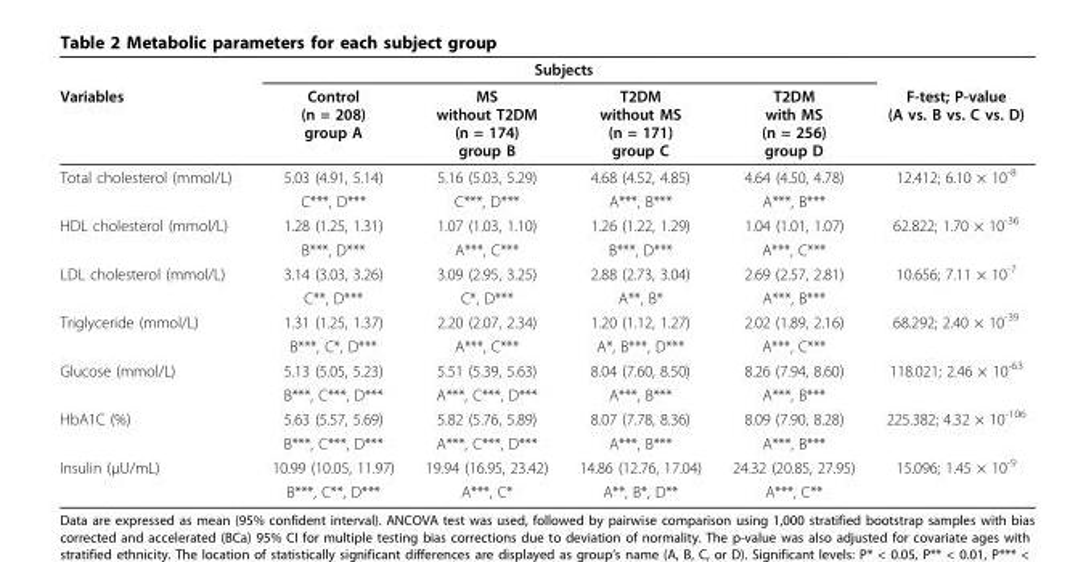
<table><thead><tr><td rowspan="2">Variables</td><td colspan="4">Subjects</td><td rowspan="2">F-test; P-value (A vs. B vs. C vs. D)</td></tr><tr><td>Control (n = 208) group A</td><td>MS without T2DM (n = 174) group B</td><td>T2DM without MS (n = 171) group C</td><td>T2DM with MS (n = 256) group D</td></tr></thead><tbody><tr><td rowspan="2">Total cholesterol (mmol/L)</td><td>5.03 (4.91, 5.14)</td><td>5.16 (5.03, 5.29)</td><td>4.68 (4.52, 4.85)</td><td>4.64 (4.50, 4.78)</td><td>12.412; 6.10 × 10<sup>-8</sup></td></tr><tr><td>C***, D***</td><td>C***, D***</td><td>A***, B***</td><td>A***, B***</td><td></td></tr><tr><td rowspan="2">HDL cholesterol (mmol/L)</td><td>1.28 (1.25, 1.31)</td><td>1.07 (1.03, 1.10)</td><td>1.26 (1.22, 1.29)</td><td>1.04 (1.01, 1.07)</td><td>62.822; 1.70 × 10<sup>-36</sup></td></tr><tr><td>B***, D***</td><td>A***, C***</td><td>B***, D***</td><td>A***, C***</td><td></td></tr><tr><td rowspan="2">LDL cholesterol (mmol/L)</td><td>3.14 (3.03, 3.26)</td><td>3.09 (2.95, 3.25)</td><td>2.88 (2.73, 3.04)</td><td>2.69 (2.57, 2.81)</td><td>10.656; 7.11 × 10<sup>-7</sup></td></tr><tr><td>C**, D***</td><td>C*, D***</td><td>A**, B*</td><td>A***, B***</td><td></td></tr><tr><td rowspan="2">Triglyceride (mmol/L)</td><td>1.31 (1.25, 1.37)</td><td>2.20 (2.07, 2.34)</td><td>1.20 (1.12, 1.27)</td><td>2.02 (1.89, 2.16)</td><td>68.292; 2.40 × 10<sup>-39</sup></td></tr><tr><td>B***, C*, D***</td><td>A***, C***</td><td>A*, B***, D***</td><td>A***, C***</td><td></td></tr><tr><td rowspan="2">Glucose (mmol/L)</td><td>5.13 (5.05, 5.23)</td><td>5.51 (5.39, 5.63)</td><td>8.04 (7.60, 8.50)</td><td>8.26 (7.94, 8.60)</td><td>118.021; 2.46 × 10<sup>-63</sup></td></tr><tr><td>B***, C***, D***</td><td>A***, C***, D***</td><td>A***, B***</td><td>A***, B***</td><td></td></tr><tr><td rowspan="2">HbA1C (%)</td><td>5.63 (5.57, 5.69)</td><td>5.82 (5.76, 5.89)</td><td>8.07 (7.78, 8.36)</td><td>8.09 (7.90, 8.28)</td><td>225.382; 4.32 × 10<sup>-106</sup></td></tr><tr><td>B***, C***, D***</td><td>A***, C***, D***</td><td>A***, B***</td><td>A***, B***</td><td></td></tr><tr><td rowspan="2">Insulin (μU/mL)</td><td>10.99 (10.05, 11.97)</td><td>19.94 (16.95, 23.42)</td><td>14.86 (12.76, 17.04)</td><td>24.32 (20.85, 27.95)</td><td>15.096; 1.45 × 10<sup>-9</sup></td></tr><tr><td>B***, C**, D***</td><td>A***, C*</td><td>A**, B*, D**</td><td>A***, C**</td><td></td></tr></tbody></table>